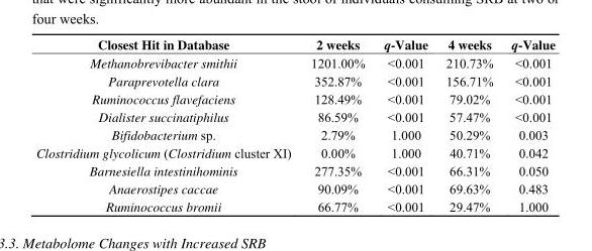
<table><thead><tr><td>Closest Hit in Database</td><td>2 weeks</td><td>q-Value</td><td>4 weeks</td><td>q-Value</td></tr></thead><tbody><tr><td>Methanobrevibacter smithii</td><td>1201.00%</td><td>&lt;0.001</td><td>210.73%</td><td>&lt;0.001</td></tr><tr><td>Paraprevotella clara</td><td>352.87%</td><td>&lt;0.001</td><td>156.71%</td><td>&lt;0.001</td></tr><tr><td>Ruminococcus flavefaciens</td><td>128.49%</td><td>&lt;0.001</td><td>79.02%</td><td>&lt;0.001</td></tr><tr><td>Dialister succinatiphilus</td><td>86.59%</td><td>&lt;0.001</td><td>57.47%</td><td>&lt;0.001</td></tr><tr><td>Bifidobacterium sp.</td><td>2.79%</td><td>1.000</td><td>50.29%</td><td>0.003</td></tr><tr><td>Clostridium glycolicum (Clostridium cluster XI)</td><td>0.00%</td><td>1.000</td><td>40.71%</td><td>0.042</td></tr><tr><td>Barnesiella intestinihominis</td><td>277.35%</td><td>&lt;0.001</td><td>66.31%</td><td>0.050</td></tr><tr><td>Anaerostipes caccae</td><td>90.09%</td><td>&lt;0.001</td><td>69.63%</td><td>0.483</td></tr><tr><td>Ruminococcus bromii</td><td>66.77%</td><td>&lt;0.001</td><td>29.47%</td><td>1.000</td></tr></tbody></table>